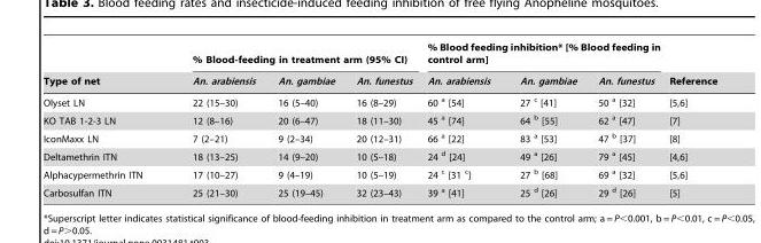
<table><thead><tr><td rowspan="2">Type of net</td><td colspan="3">% Blood-feeding in treatment arm (95% CI)</td><td colspan="3">% Blood feeding inhibition* [% Blood feeding in control arm]</td><td rowspan="2">Reference</td></tr><tr><td>An. arabiensis</td><td>An. gambiae</td><td>An. funestus</td><td>An. arabiensis</td><td>An. gambiae</td><td>An. funestus</td></tr></thead><tbody><tr><td>Olyset LN</td><td>22 (15–30)</td><td>16 (5–40)</td><td>16 (8–29)</td><td>60 <sup>a</sup> [54]</td><td>27 <sup>c</sup> [41]</td><td>50 <sup>a</sup> [32]</td><td>[5,6]</td></tr><tr><td>KO TAB 1-2-3 LN</td><td>12 (8–16)</td><td>20 (6–47)</td><td>18 (11–30)</td><td>45 <sup>a</sup> [74]</td><td>64 <sup>b</sup> [55]</td><td>62 <sup>a</sup> [47]</td><td>[7]</td></tr><tr><td>IconMaxx LN</td><td>7 (2–21)</td><td>9 (2–34)</td><td>20 (12–31)</td><td>66 <sup>a</sup> [22]</td><td>83 <sup>a</sup> [53]</td><td>47 <sup>b</sup> [37]</td><td>[8]</td></tr><tr><td>Deltamethrin ITN</td><td>18 (13–25)</td><td>14 (9–20)</td><td>10 (5–18)</td><td>24 <sup>d</sup> [24]</td><td>49 <sup>a</sup> [26]</td><td>79 <sup>a</sup> [45]</td><td>[4,6]</td></tr><tr><td>Alphacypermethrin ITN</td><td>17 (10–27)</td><td>9 (4–19)</td><td>10 (5–19)</td><td>24 <sup>c</sup> [31 <sup>c</sup>]</td><td>27 <sup>b</sup> [68]</td><td>69 <sup>a</sup> [32]</td><td>[5,6]</td></tr><tr><td>Carbosulfan ITN</td><td>25 (21–30)</td><td>25 (19–45)</td><td>32 (23–43)</td><td>39 <sup>a</sup> [41]</td><td>25 <sup>d</sup> [26]</td><td>29 <sup>d</sup> [26]</td><td>[5]</td></tr></tbody></table>